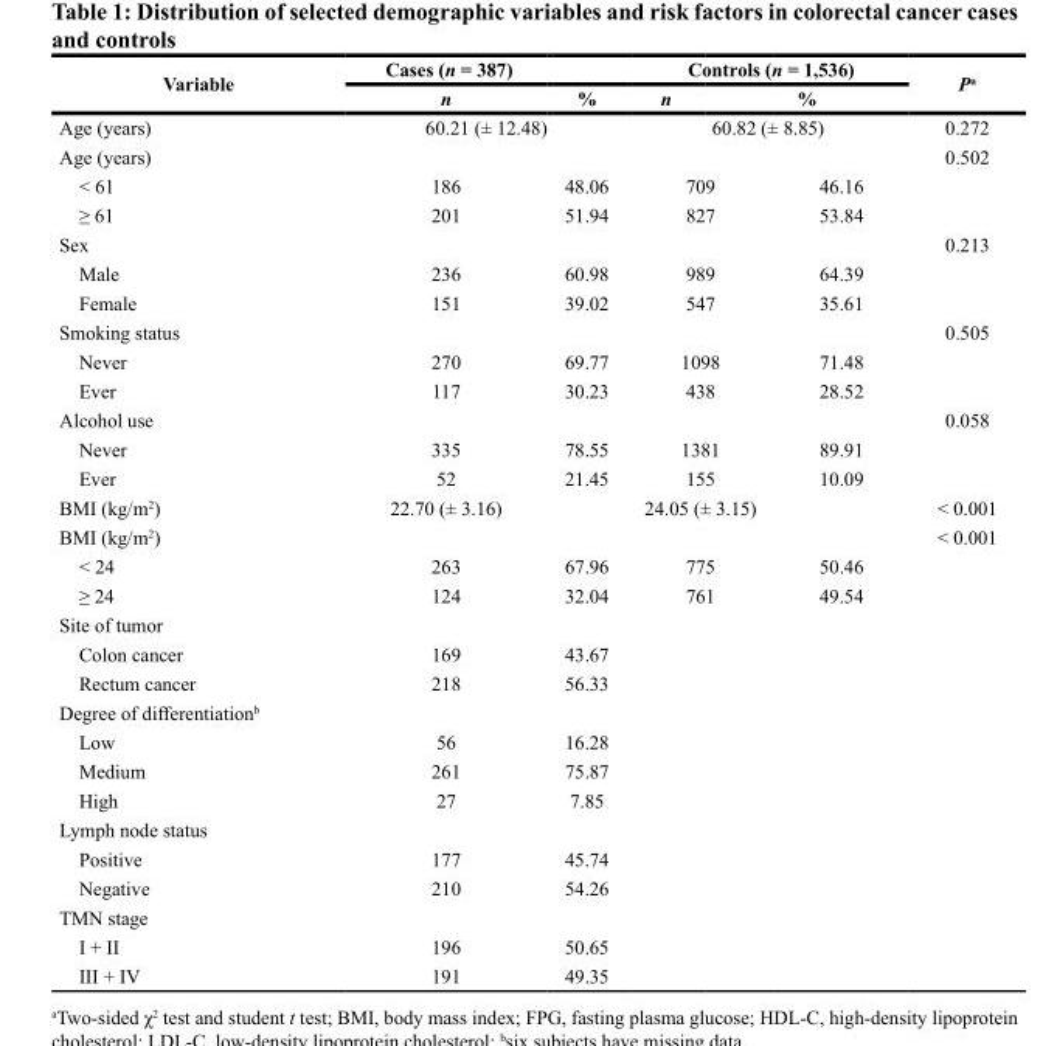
<table><thead><tr><td rowspan="2">Variable</td><td colspan="2">Cases (n = 387)</td><td colspan="2">Controls (n = 1,536)</td><td rowspan="2">P<sup>a</sup></td></tr><tr><td>n</td><td>%</td><td>n</td><td>%</td></tr></thead><tbody><tr><td>Age (years)</td><td colspan="2">60.21 (± 12.48)</td><td colspan="2">60.82 (± 8.85)</td><td>0.272</td></tr><tr><td>Age (years)</td><td></td><td></td><td></td><td></td><td>0.502</td></tr><tr><td>&lt; 61</td><td>186</td><td>48.06</td><td>709</td><td>46.16</td><td></td></tr><tr><td>≥ 61</td><td>201</td><td>51.94</td><td>827</td><td>53.84</td><td></td></tr><tr><td>Sex</td><td></td><td></td><td></td><td></td><td>0.213</td></tr><tr><td>Male</td><td>236</td><td>60.98</td><td>989</td><td>64.39</td><td></td></tr><tr><td>Female</td><td>151</td><td>39.02</td><td>547</td><td>35.61</td><td></td></tr><tr><td>Smoking status</td><td></td><td></td><td></td><td></td><td>0.505</td></tr><tr><td>Never</td><td>270</td><td>69.77</td><td>1098</td><td>71.48</td><td></td></tr><tr><td>Ever</td><td>117</td><td>30.23</td><td>438</td><td>28.52</td><td></td></tr><tr><td>Alcohol use</td><td></td><td></td><td></td><td></td><td>0.058</td></tr><tr><td>Never</td><td>335</td><td>78.55</td><td>1381</td><td>89.91</td><td></td></tr><tr><td>Ever</td><td>52</td><td>21.45</td><td>155</td><td>10.09</td><td></td></tr><tr><td>BMI (kg/m<sup>2</sup>)</td><td>22.70 (± 3.16)</td><td></td><td>24.05 (± 3.15)</td><td></td><td>&lt; 0.001</td></tr><tr><td>BMI (kg/m<sup>2</sup>)</td><td></td><td></td><td></td><td></td><td>&lt; 0.001</td></tr><tr><td>&lt; 24</td><td>263</td><td>67.96</td><td>775</td><td>50.46</td><td></td></tr><tr><td>≥ 24</td><td>124</td><td>32.04</td><td>761</td><td>49.54</td><td></td></tr><tr><td colspan="6">Site of tumor</td></tr><tr><td>Colon cancer</td><td>169</td><td>43.67</td><td></td><td></td><td></td></tr><tr><td>Rectum cancer</td><td>218</td><td>56.33</td><td></td><td></td><td></td></tr><tr><td colspan="6">Degree of differentiation<sup>b</sup></td></tr><tr><td>Low</td><td>56</td><td>16.28</td><td></td><td></td><td></td></tr><tr><td>Medium</td><td>261</td><td>75.87</td><td></td><td></td><td></td></tr><tr><td>High</td><td>27</td><td>7.85</td><td></td><td></td><td></td></tr><tr><td colspan="6">Lymph node status</td></tr><tr><td>Positive</td><td>177</td><td>45.74</td><td></td><td></td><td></td></tr><tr><td>Negative</td><td>210</td><td>54.26</td><td></td><td></td><td></td></tr><tr><td colspan="6">TMN stage</td></tr><tr><td>I + II</td><td>196</td><td>50.65</td><td></td><td></td><td></td></tr><tr><td>III + IV</td><td>191</td><td>49.35</td><td></td><td></td><td></td></tr></tbody></table>